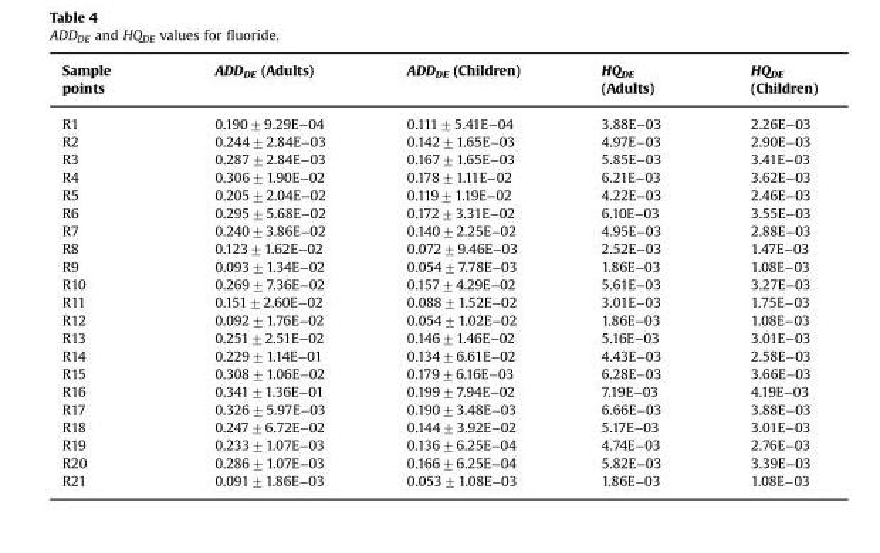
<table><thead><tr><td>Sample points</td><td>ADD<sub>DE</sub> (Adults)</td><td>ADD<sub>DE</sub> (Children)</td><td>HQ<sub>DE</sub> (Adults)</td><td>HQ<sub>DE</sub> (Children)</td></tr></thead><tbody><tr><td>R1</td><td>0.190±9.29E−04</td><td>0.111±5.41E−04</td><td>3.88E−03</td><td>2.26E−03</td></tr><tr><td>R2</td><td>0.244±2.84E−03</td><td>0.142±1.65E−03</td><td>4.97E−03</td><td>2.90E−03</td></tr><tr><td>R3</td><td>0.287±2.84E−03</td><td>0.167±1.65E−03</td><td>5.85E−03</td><td>3.41E−03</td></tr><tr><td>R4</td><td>0.306±1.90E−02</td><td>0.178±1.11E−02</td><td>6.21E−03</td><td>3.62E−03</td></tr><tr><td>R5</td><td>0.205±2.04E−02</td><td>0.119±1.19E−02</td><td>4.22E−03</td><td>2.46E−03</td></tr><tr><td>R6</td><td>0.295±5.68E−02</td><td>0.172±3.31E−02</td><td>6.10E−03</td><td>3.55E−03</td></tr><tr><td>R7</td><td>0.240±3.86E−02</td><td>0.140±2.25E−02</td><td>4.95E−03</td><td>2.88E−03</td></tr><tr><td>R8</td><td>0.123±1.62E−02</td><td>0.072±9.46E−03</td><td>2.52E−03</td><td>1.47E−03</td></tr><tr><td>R9</td><td>0.093±1.34E−02</td><td>0.054±7.78E−03</td><td>1.86E−03</td><td>1.08E−03</td></tr><tr><td>R10</td><td>0.269±7.36E−02</td><td>0.157±4.29E−02</td><td>5.61E−03</td><td>3.27E−03</td></tr><tr><td>R11</td><td>0.151±2.60E−02</td><td>0.088±1.52E−02</td><td>3.01E−03</td><td>1.75E−03</td></tr><tr><td>R12</td><td>0.092±1.76E−02</td><td>0.054±1.02E−02</td><td>1.86E−03</td><td>1.08E−03</td></tr><tr><td>R13</td><td>0.251±2.51E−02</td><td>0.146±1.46E−02</td><td>5.16E−03</td><td>3.01E−03</td></tr><tr><td>R14</td><td>0.229±1.14E−01</td><td>0.134±6.61E−02</td><td>4.43E−03</td><td>2.58E−03</td></tr><tr><td>R15</td><td>0.308±1.06E−02</td><td>0.179±6.16E−03</td><td>6.28E−03</td><td>3.66E−03</td></tr><tr><td>R16</td><td>0.341±1.36E−01</td><td>0.199±7.94E−02</td><td>7.19E−03</td><td>4.19E−03</td></tr><tr><td>R17</td><td>0.326±5.97E−03</td><td>0.190±3.48E−03</td><td>6.66E−03</td><td>3.88E−03</td></tr><tr><td>R18</td><td>0.247±6.72E−02</td><td>0.144±3.92E−02</td><td>5.17E−03</td><td>3.01E−03</td></tr><tr><td>R19</td><td>0.233±1.07E−03</td><td>0.136±6.25E−04</td><td>4.74E−03</td><td>2.76E−03</td></tr><tr><td>R20</td><td>0.286±1.07E−03</td><td>0.166±6.25E−04</td><td>5.82E−03</td><td>3.39E−03</td></tr><tr><td>R21</td><td>0.091±1.86E−03</td><td>0.053±1.08E−03</td><td>1.86E−03</td><td>1.08E−03</td></tr></tbody></table>